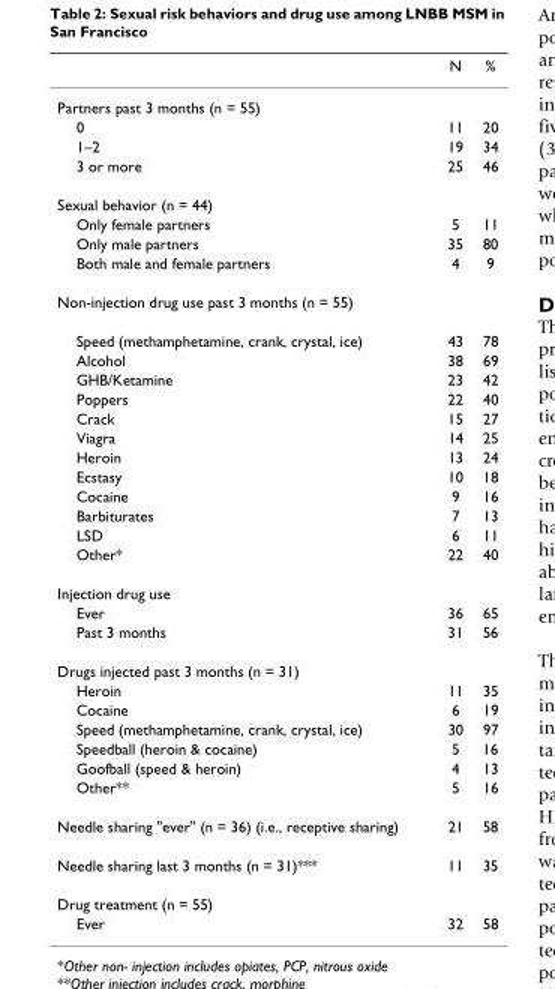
<table><thead><tr><td></td><td>N</td><td>%</td></tr></thead><tbody><tr><td colspan="3">Partners past 3 months (n = 55)</td></tr><tr><td>0</td><td>11</td><td>20</td></tr><tr><td>1–2</td><td>19</td><td>34</td></tr><tr><td>3 or more</td><td>25</td><td>46</td></tr><tr><td colspan="3">Sexual behavior (n = 44)</td></tr><tr><td>Only female partners</td><td>5</td><td>11</td></tr><tr><td>Only male partners</td><td>35</td><td>80</td></tr><tr><td>Both male and female partners</td><td>4</td><td>9</td></tr><tr><td colspan="3">Non-injection drug use past 3 months (n = 55)</td></tr><tr><td>Speed (methamphetamine, crank, crystal, ice)</td><td>43</td><td>78</td></tr><tr><td>Alcohol</td><td>38</td><td>69</td></tr><tr><td>GHB/Ketamine</td><td>23</td><td>42</td></tr><tr><td>Poppers</td><td>22</td><td>40</td></tr><tr><td>Crack</td><td>15</td><td>27</td></tr><tr><td>Viagra</td><td>14</td><td>25</td></tr><tr><td>Heroin</td><td>13</td><td>24</td></tr><tr><td>Ecstasy</td><td>10</td><td>18</td></tr><tr><td>Cocaine</td><td>9</td><td>16</td></tr><tr><td>Barbiturates</td><td>7</td><td>13</td></tr><tr><td>LSD</td><td>6</td><td>11</td></tr><tr><td>Other*</td><td>22</td><td>40</td></tr><tr><td colspan="3">Injection drug use</td></tr><tr><td>Ever</td><td>36</td><td>65</td></tr><tr><td>Past 3 months</td><td>31</td><td>56</td></tr><tr><td colspan="3">Drugs injected past 3 months (n = 31)</td></tr><tr><td>Heroin</td><td>11</td><td>35</td></tr><tr><td>Cocaine</td><td>6</td><td>19</td></tr><tr><td>Speed (methamphetamine, crank, crystal, ice)</td><td>30</td><td>97</td></tr><tr><td>Speedball (heroin &amp; cocaine)</td><td>5</td><td>16</td></tr><tr><td>Goofball (speed &amp; heroin)</td><td>4</td><td>13</td></tr><tr><td>Other**</td><td>5</td><td>16</td></tr><tr><td>Needle sharing &quot;ever&quot; (n = 36) (i.e., receptive sharing)</td><td>21</td><td>58</td></tr><tr><td>Needle sharing last 3 months (n = 31)***</td><td>11</td><td>35</td></tr><tr><td colspan="3">Drug treatment (n = 55)</td></tr><tr><td>Ever</td><td>32</td><td>58</td></tr></tbody></table>